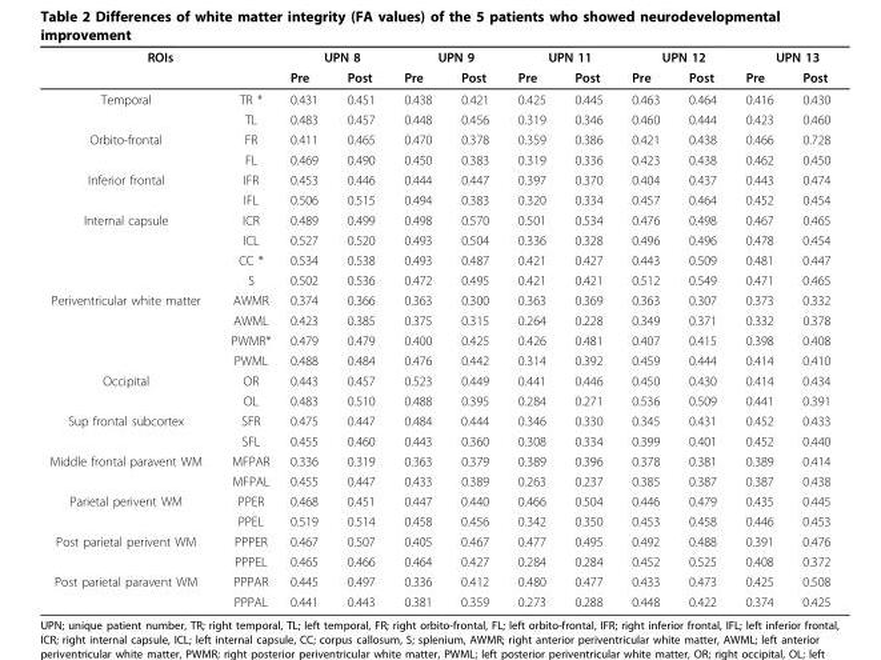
<table><thead><tr><td colspan="2">ROIs</td><td colspan="2">UPN 8</td><td colspan="2">UPN 9</td><td colspan="2">UPN 11</td><td colspan="2">UPN 12</td><td colspan="2">UPN 13</td></tr><tr><td></td><td></td><td>Pre</td><td>Post</td><td>Pre</td><td>Post</td><td>Pre</td><td>Post</td><td>Pre</td><td>Post</td><td>Pre</td><td>Post</td></tr></thead><tbody><tr><td rowspan="2">Temporal</td><td>TR *</td><td>0.431</td><td>0.451</td><td>0.438</td><td>0.421</td><td>0.425</td><td>0.445</td><td>0.463</td><td>0.464</td><td>0.416</td><td>0.430</td></tr><tr><td>TL</td><td>0.483</td><td>0.457</td><td>0.448</td><td>0.456</td><td>0.319</td><td>0.346</td><td>0.460</td><td>0.444</td><td>0.423</td><td>0.460</td></tr><tr><td rowspan="2">Orbito-frontal</td><td>FR</td><td>0.411</td><td>0.465</td><td>0.470</td><td>0.378</td><td>0.359</td><td>0.386</td><td>0.421</td><td>0.438</td><td>0.466</td><td>0.728</td></tr><tr><td>FL</td><td>0.469</td><td>0.490</td><td>0.450</td><td>0.383</td><td>0.319</td><td>0.336</td><td>0.423</td><td>0.438</td><td>0.462</td><td>0.450</td></tr><tr><td rowspan="2">Inferior frontal</td><td>IFR</td><td>0.453</td><td>0.446</td><td>0.444</td><td>0.447</td><td>0.397</td><td>0.370</td><td>0.404</td><td>0.437</td><td>0.443</td><td>0.474</td></tr><tr><td>IFL</td><td>0.506</td><td>0.515</td><td>0.494</td><td>0.383</td><td>0.320</td><td>0.334</td><td>0.457</td><td>0.464</td><td>0.452</td><td>0.454</td></tr><tr><td rowspan="4">Internal capsule</td><td>ICR</td><td>0.489</td><td>0.499</td><td>0.498</td><td>0.570</td><td>0.501</td><td>0.534</td><td>0.476</td><td>0.498</td><td>0.467</td><td>0.465</td></tr><tr><td>ICL</td><td>0.527</td><td>0.520</td><td>0.493</td><td>0.504</td><td>0.336</td><td>0.328</td><td>0.496</td><td>0.496</td><td>0.478</td><td>0.454</td></tr><tr><td>CC *</td><td>0.534</td><td>0.538</td><td>0.493</td><td>0.487</td><td>0.421</td><td>0.427</td><td>0.443</td><td>0.509</td><td>0.481</td><td>0.447</td></tr><tr><td>S</td><td>0.502</td><td>0.536</td><td>0.472</td><td>0.495</td><td>0.421</td><td>0.421</td><td>0.512</td><td>0.549</td><td>0.471</td><td>0.465</td></tr><tr><td rowspan="4">Periventricular white matter</td><td>AWMR</td><td>0.374</td><td>0.366</td><td>0.363</td><td>0.300</td><td>0.363</td><td>0.369</td><td>0.363</td><td>0.307</td><td>0.373</td><td>0.332</td></tr><tr><td>AWML</td><td>0.423</td><td>0.385</td><td>0.375</td><td>0.315</td><td>0.264</td><td>0.228</td><td>0.349</td><td>0.371</td><td>0.332</td><td>0.378</td></tr><tr><td>PWMR*</td><td>0.479</td><td>0.479</td><td>0.400</td><td>0.425</td><td>0.426</td><td>0.481</td><td>0.407</td><td>0.415</td><td>0.398</td><td>0.408</td></tr><tr><td>PWML</td><td>0.488</td><td>0.484</td><td>0.476</td><td>0.442</td><td>0.314</td><td>0.392</td><td>0.459</td><td>0.444</td><td>0.414</td><td>0.410</td></tr><tr><td rowspan="2">Occipital</td><td>OR</td><td>0.443</td><td>0.457</td><td>0.523</td><td>0.449</td><td>0.441</td><td>0.446</td><td>0.450</td><td>0.430</td><td>0.414</td><td>0.434</td></tr><tr><td>OL</td><td>0.483</td><td>0.510</td><td>0.488</td><td>0.395</td><td>0.284</td><td>0.271</td><td>0.536</td><td>0.509</td><td>0.441</td><td>0.391</td></tr><tr><td rowspan="2">Sup frontal subcortex</td><td>SFR</td><td>0.475</td><td>0.447</td><td>0.484</td><td>0.444</td><td>0.346</td><td>0.330</td><td>0.345</td><td>0.431</td><td>0.452</td><td>0.433</td></tr><tr><td>SFL</td><td>0.455</td><td>0.460</td><td>0.443</td><td>0.360</td><td>0.308</td><td>0.334</td><td>0.399</td><td>0.401</td><td>0.452</td><td>0.440</td></tr><tr><td rowspan="2">Middle frontal paravent WM</td><td>MFPAR</td><td>0.336</td><td>0.319</td><td>0.363</td><td>0.379</td><td>0.389</td><td>0.396</td><td>0.378</td><td>0.381</td><td>0.389</td><td>0.414</td></tr><tr><td>MFPAL</td><td>0.455</td><td>0.447</td><td>0.433</td><td>0.389</td><td>0.263</td><td>0.237</td><td>0.385</td><td>0.387</td><td>0.387</td><td>0.438</td></tr><tr><td rowspan="2">Parietal perivent WM</td><td>PPER</td><td>0.468</td><td>0.451</td><td>0.447</td><td>0.440</td><td>0.466</td><td>0.504</td><td>0.446</td><td>0.479</td><td>0.435</td><td>0.445</td></tr><tr><td>PPEL</td><td>0.519</td><td>0.514</td><td>0.458</td><td>0.456</td><td>0.342</td><td>0.350</td><td>0.453</td><td>0.458</td><td>0.446</td><td>0.453</td></tr><tr><td rowspan="2">Post parietal perivent WM</td><td>PPPER</td><td>0.467</td><td>0.507</td><td>0.405</td><td>0.467</td><td>0.477</td><td>0.495</td><td>0.492</td><td>0.488</td><td>0.391</td><td>0.476</td></tr><tr><td>PPPEL</td><td>0.465</td><td>0.466</td><td>0.464</td><td>0.427</td><td>0.284</td><td>0.284</td><td>0.452</td><td>0.525</td><td>0.408</td><td>0.372</td></tr><tr><td rowspan="2">Post parietal paravent WM</td><td>PPPAR</td><td>0.445</td><td>0.497</td><td>0.336</td><td>0.412</td><td>0.480</td><td>0.477</td><td>0.433</td><td>0.473</td><td>0.425</td><td>0.508</td></tr><tr><td>PPPAL</td><td>0.441</td><td>0.443</td><td>0.381</td><td>0.359</td><td>0.273</td><td>0.288</td><td>0.448</td><td>0.422</td><td>0.374</td><td>0.425</td></tr></tbody></table>